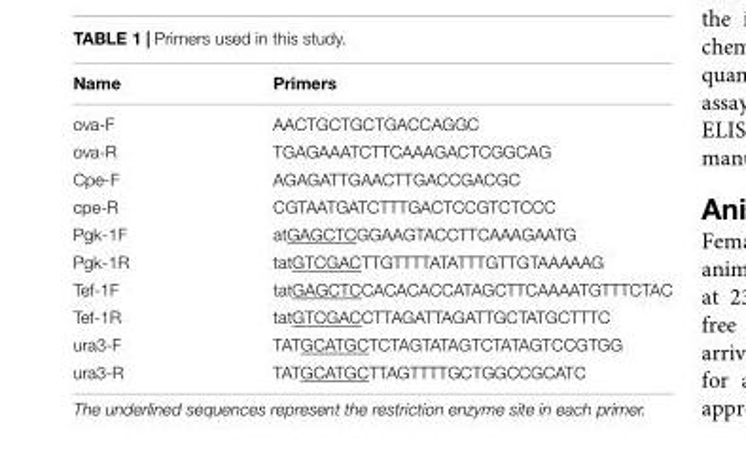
<table><thead><tr><td>Name</td><td>Primers</td></tr></thead><tbody><tr><td>ova-F</td><td>AACTGCTGCTGACCAGGC</td></tr><tr><td>ova-R</td><td>TGAGAAATCTTCAAAGACTCGGCAG</td></tr><tr><td>Cpe-F</td><td>AGAGATTGAACTTGACCGACGC</td></tr><tr><td>cpe-R</td><td>CGTAATGATCTTTGACTCCGTCTCCC</td></tr><tr><td>Pgk-1F</td><td>atGAGCTCGGAAGTACCTTCAAAGAATG</td></tr><tr><td>Pgk-1R</td><td>tatGTCGACTTGTTTTATATTTGTTGTAAAAAG</td></tr><tr><td>Tef-1F</td><td>tatGAGCTCCACACACCATAGCTTCAAAATGTTTCTAC</td></tr><tr><td>Tef-1R</td><td>tatGTCGACCTTAGATTAGATTGCTATGCTTTC</td></tr><tr><td>ura3-F</td><td>TATGCATGCTCTAGTATAGTCTATAGTCCGTGG</td></tr><tr><td>ura3-R</td><td>TATGCATGCTTAGTTTTGCTGGCCGCATC</td></tr></tbody></table>